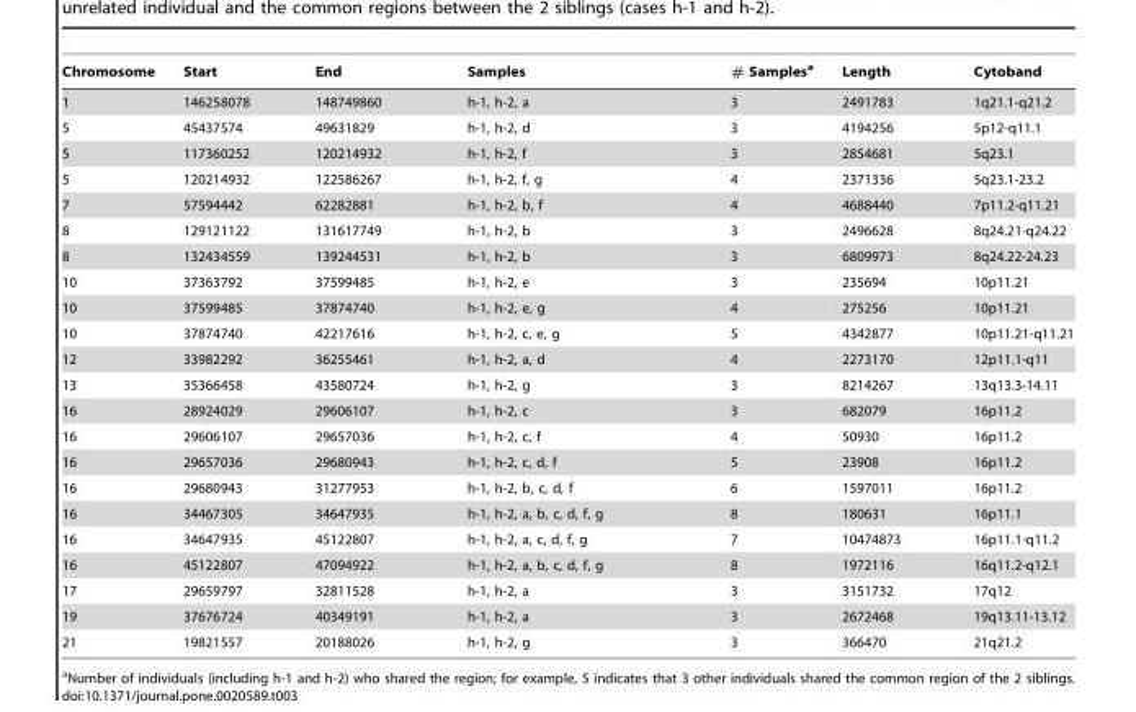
<table><thead><tr><td>Chromosome</td><td>Start</td><td>End</td><td>Samples</td><td># Samples<sup>a</sup></td><td>Length</td><td>Cytoband</td></tr></thead><tbody><tr><td>1</td><td>146258078</td><td>148749860</td><td>h-1, h-2, a</td><td>3</td><td>2491783</td><td>1q21.1-q21.2</td></tr><tr><td>5</td><td>45437574</td><td>49631829</td><td>h-1, h-2, d</td><td>3</td><td>4194256</td><td>5p12-q11.1</td></tr><tr><td>5</td><td>117360252</td><td>120214932</td><td>h-1, h-2, f</td><td>3</td><td>2854681</td><td>5q23.1</td></tr><tr><td>5</td><td>120214932</td><td>122586267</td><td>h-1, h-2, f, g</td><td>4</td><td>2371336</td><td>5q23.1-23.2</td></tr><tr><td>7</td><td>57594442</td><td>62282881</td><td>h-1, h-2, b, f</td><td>4</td><td>4688440</td><td>7p11.2-q11.21</td></tr><tr><td>8</td><td>129121122</td><td>131617749</td><td>h-1, h-2, b</td><td>3</td><td>2496628</td><td>8q24.21-q24.22</td></tr><tr><td>8</td><td>132434559</td><td>139244531</td><td>h-1, h-2, b</td><td>3</td><td>6809973</td><td>8q24.22-24.23</td></tr><tr><td>10</td><td>37363792</td><td>37599485</td><td>h-1, h-2, e</td><td>3</td><td>235694</td><td>10p11.21</td></tr><tr><td>10</td><td>37599485</td><td>37874740</td><td>h-1, h-2, e, g</td><td>4</td><td>275256</td><td>10p11.21</td></tr><tr><td>10</td><td>37874740</td><td>42217616</td><td>h-1, h-2, c, e, g</td><td>5</td><td>4342877</td><td>10p11.21-q11.21</td></tr><tr><td>12</td><td>33982292</td><td>36255461</td><td>h-1, h-2, a, d</td><td>4</td><td>2273170</td><td>12p11.1-q11</td></tr><tr><td>13</td><td>35366458</td><td>43580724</td><td>h-1, h-2, g</td><td>3</td><td>8214267</td><td>13q13.3-14.11</td></tr><tr><td>16</td><td>28924029</td><td>29606107</td><td>h-1, h-2, c</td><td>3</td><td>682079</td><td>16p11.2</td></tr><tr><td>16</td><td>29606107</td><td>29657036</td><td>h-1, h-2, c, f</td><td>4</td><td>50930</td><td>16p11.2</td></tr><tr><td>16</td><td>29657036</td><td>29680943</td><td>h-1, h-2, c, d, f</td><td>5</td><td>23908</td><td>16p11.2</td></tr><tr><td>16</td><td>29680943</td><td>31277953</td><td>h-1, h-2, b, c, d, f</td><td>6</td><td>1597011</td><td>16p11.2</td></tr><tr><td>16</td><td>34467305</td><td>34647935</td><td>h-1, h-2, a, b, c, d, f, g</td><td>8</td><td>180631</td><td>16p11.1</td></tr><tr><td>16</td><td>34647935</td><td>45122807</td><td>h-1, h-2, a, c, d, f, g</td><td>7</td><td>10474873</td><td>16p11.1-q11.2</td></tr><tr><td>16</td><td>45122807</td><td>47094922</td><td>h-1, h-2, a, b, c, d, f, g</td><td>8</td><td>1972116</td><td>16q11.2-q12.1</td></tr><tr><td>17</td><td>29659797</td><td>32811528</td><td>h-1, h-2, a</td><td>3</td><td>3151732</td><td>17q12</td></tr><tr><td>19</td><td>37676724</td><td>40349191</td><td>h-1, h-2, a</td><td>3</td><td>2672468</td><td>19q13.11-13.12</td></tr><tr><td>21</td><td>19821557</td><td>20188026</td><td>h-1, h-2, g</td><td>3</td><td>366470</td><td>21q21.2</td></tr></tbody></table>